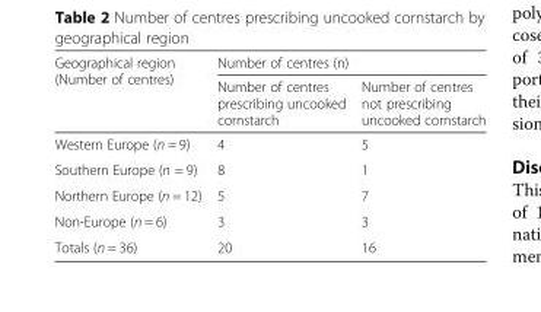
<table><thead><tr><td rowspan="2">Geographical region (Number of centres)</td><td colspan="2">Number of centres (n)</td></tr><tr><td>Number of centres prescribing uncooked cornstarch</td><td>Number of centres not prescribing uncooked cornstarch</td></tr></thead><tbody><tr><td>Western Europe (n = 9)</td><td>4</td><td>5</td></tr><tr><td>Southern Europe (n = 9)</td><td>8</td><td>1</td></tr><tr><td>Northern Europe (n = 12)</td><td>5</td><td>7</td></tr><tr><td>Non-Europe (n = 6)</td><td>3</td><td>3</td></tr><tr><td>Totals (n = 36)</td><td>20</td><td>16</td></tr></tbody></table>